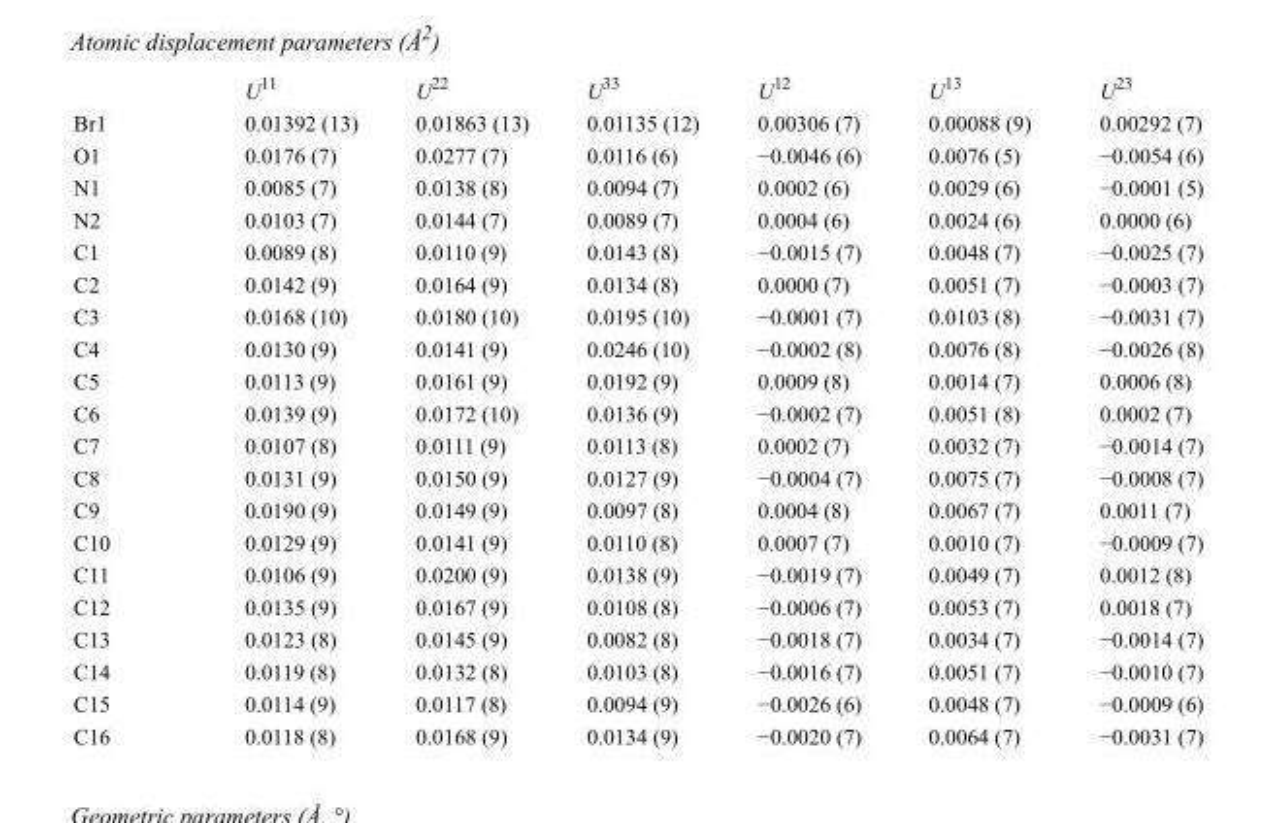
<table><thead><tr><td></td><td>U<sup>11</sup></td><td>U<sup>22</sup></td><td>U<sup>33</sup></td><td>U<sup>12</sup></td><td>U<sup>13</sup></td><td>U<sup>23</sup></td></tr></thead><tbody><tr><td>Br1</td><td>0.01392 (13)</td><td>0.01863 (13)</td><td>0.01135 (12)</td><td>0.00306 (7)</td><td>0.00088 (9)</td><td>0.00292 (7)</td></tr><tr><td>O1</td><td>0.0176 (7)</td><td>0.0277 (7)</td><td>0.0116 (6)</td><td>−0.0046 (6)</td><td>0.0076 (5)</td><td>−0.0054 (6)</td></tr><tr><td>N1</td><td>0.0085 (7)</td><td>0.0138 (8)</td><td>0.0094 (7)</td><td>0.0002 (6)</td><td>0.0029 (6)</td><td>−0.0001 (5)</td></tr><tr><td>N2</td><td>0.0103 (7)</td><td>0.0144 (7)</td><td>0.0089 (7)</td><td>0.0004 (6)</td><td>0.0024 (6)</td><td>0.0000 (6)</td></tr><tr><td>C1</td><td>0.0089 (8)</td><td>0.0110 (9)</td><td>0.0143 (8)</td><td>−0.0015 (7)</td><td>0.0048 (7)</td><td>−0.0025 (7)</td></tr><tr><td>C2</td><td>0.0142 (9)</td><td>0.0164 (9)</td><td>0.0134 (8)</td><td>0.0000 (7)</td><td>0.0051 (7)</td><td>−0.0003 (7)</td></tr><tr><td>C3</td><td>0.0168 (10)</td><td>0.0180 (10)</td><td>0.0195 (10)</td><td>−0.0001 (7)</td><td>0.0103 (8)</td><td>−0.0031 (7)</td></tr><tr><td>C4</td><td>0.0130 (9)</td><td>0.0141 (9)</td><td>0.0246 (10)</td><td>−0.0002 (8)</td><td>0.0076 (8)</td><td>−0.0026 (8)</td></tr><tr><td>C5</td><td>0.0113 (9)</td><td>0.0161 (9)</td><td>0.0192 (9)</td><td>0.0009 (8)</td><td>0.0014 (7)</td><td>0.0006 (8)</td></tr><tr><td>C6</td><td>0.0139 (9)</td><td>0.0172 (10)</td><td>0.0136 (9)</td><td>−0.0002 (7)</td><td>0.0051 (8)</td><td>0.0002 (7)</td></tr><tr><td>C7</td><td>0.0107 (8)</td><td>0.0111 (9)</td><td>0.0113 (8)</td><td>0.0002 (7)</td><td>0.0032 (7)</td><td>−0.0014 (7)</td></tr><tr><td>C8</td><td>0.0131 (9)</td><td>0.0150 (9)</td><td>0.0127 (9)</td><td>−0.0004 (7)</td><td>0.0075 (7)</td><td>−0.0008 (7)</td></tr><tr><td>C9</td><td>0.0190 (9)</td><td>0.0149 (9)</td><td>0.0097 (8)</td><td>0.0004 (8)</td><td>0.0067 (7)</td><td>0.0011 (7)</td></tr><tr><td>C10</td><td>0.0129 (9)</td><td>0.0141 (9)</td><td>0.0110 (8)</td><td>0.0007 (7)</td><td>0.0010 (7)</td><td>−0.0009 (7)</td></tr><tr><td>C11</td><td>0.0106 (9)</td><td>0.0200 (9)</td><td>0.0138 (9)</td><td>−0.0019 (7)</td><td>0.0049 (7)</td><td>0.0012 (8)</td></tr><tr><td>C12</td><td>0.0135 (9)</td><td>0.0167 (9)</td><td>0.0108 (8)</td><td>−0.0006 (7)</td><td>0.0053 (7)</td><td>0.0018 (7)</td></tr><tr><td>C13</td><td>0.0123 (8)</td><td>0.0145 (9)</td><td>0.0082 (8)</td><td>−0.0018 (7)</td><td>0.0034 (7)</td><td>−0.0014 (7)</td></tr><tr><td>C14</td><td>0.0119 (8)</td><td>0.0132 (8)</td><td>0.0103 (8)</td><td>−0.0016 (7)</td><td>0.0051 (7)</td><td>−0.0010 (7)</td></tr><tr><td>C15</td><td>0.0114 (9)</td><td>0.0117 (8)</td><td>0.0094 (9)</td><td>−0.0026 (6)</td><td>0.0048 (7)</td><td>−0.0009 (6)</td></tr><tr><td>C16</td><td>0.0118 (8)</td><td>0.0168 (9)</td><td>0.0134 (9)</td><td>−0.0020 (7)</td><td>0.0064 (7)</td><td>−0.0031 (7)</td></tr></tbody></table>